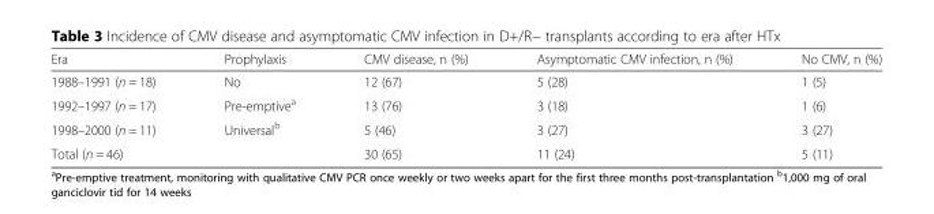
<table><thead><tr><td>Era</td><td>Prophylaxis</td><td>CMV disease, n (%)</td><td>Asymptomatic CMV infection, n (%)</td><td>No CMV, n (%)</td></tr></thead><tbody><tr><td>1988–1991 (n = 18)</td><td>No</td><td>12 (67)</td><td>5 (28)</td><td>1 (5)</td></tr><tr><td>1992–1997 (n = 17)</td><td>Pre-emptive<sup>a</sup></td><td>13 (76)</td><td>3 (18)</td><td>1 (6)</td></tr><tr><td>1998–2000 (n = 11)</td><td>Universal<sup>b</sup></td><td>5 (46)</td><td>3 (27)</td><td>3 (27)</td></tr><tr><td>Total (n = 46)</td><td></td><td>30 (65)</td><td>11 (24)</td><td>5 (11)</td></tr></tbody></table>